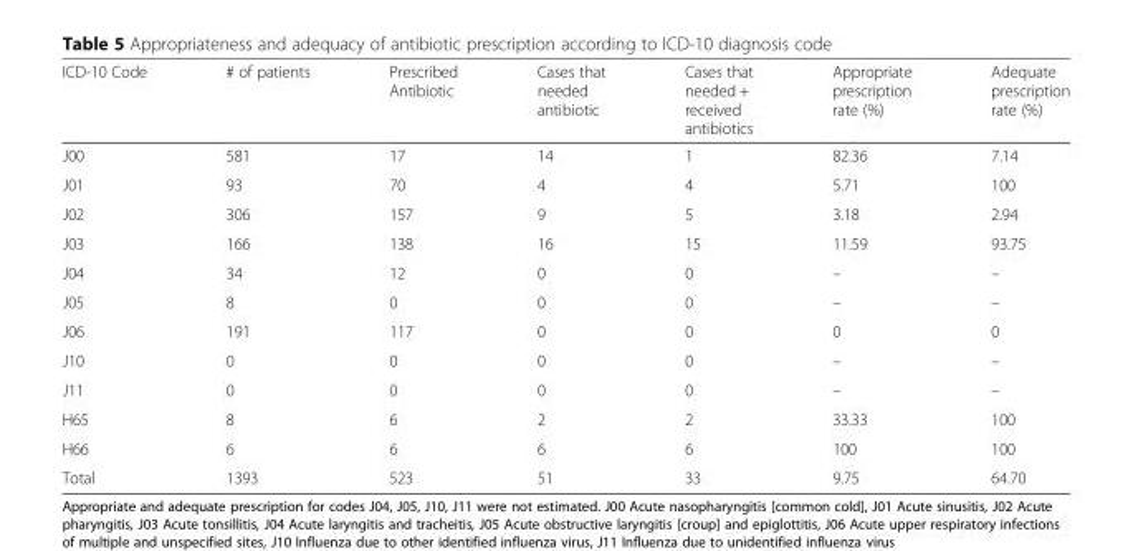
<table><thead><tr><td>ICD-10 Code</td><td># of patients</td><td>Prescribed Antibiotic</td><td>Cases that needed antibiotic</td><td>Cases that needed + received antibiotics</td><td>Appropriate prescription rate (%)</td><td>Adequate prescription rate (%)</td></tr></thead><tbody><tr><td>J00</td><td>581</td><td>17</td><td>14</td><td>1</td><td>82.36</td><td>7.14</td></tr><tr><td>J01</td><td>93</td><td>70</td><td>4</td><td>4</td><td>5.71</td><td>100</td></tr><tr><td>J02</td><td>306</td><td>157</td><td>9</td><td>5</td><td>3.18</td><td>2.94</td></tr><tr><td>J03</td><td>166</td><td>138</td><td>16</td><td>15</td><td>11.59</td><td>93.75</td></tr><tr><td>J04</td><td>34</td><td>12</td><td>0</td><td>0</td><td>–</td><td>–</td></tr><tr><td>J05</td><td>8</td><td>0</td><td>0</td><td>0</td><td>–</td><td>–</td></tr><tr><td>J06</td><td>191</td><td>117</td><td>0</td><td>0</td><td>0</td><td>0</td></tr><tr><td>J10</td><td>0</td><td>0</td><td>0</td><td>0</td><td>–</td><td>–</td></tr><tr><td>J11</td><td>0</td><td>0</td><td>0</td><td>0</td><td>–</td><td>–</td></tr><tr><td>H65</td><td>8</td><td>6</td><td>2</td><td>2</td><td>33.33</td><td>100</td></tr><tr><td>H66</td><td>6</td><td>6</td><td>6</td><td>6</td><td>100</td><td>100</td></tr><tr><td>Total</td><td>1393</td><td>523</td><td>51</td><td>33</td><td>9.75</td><td>64.70</td></tr></tbody></table>